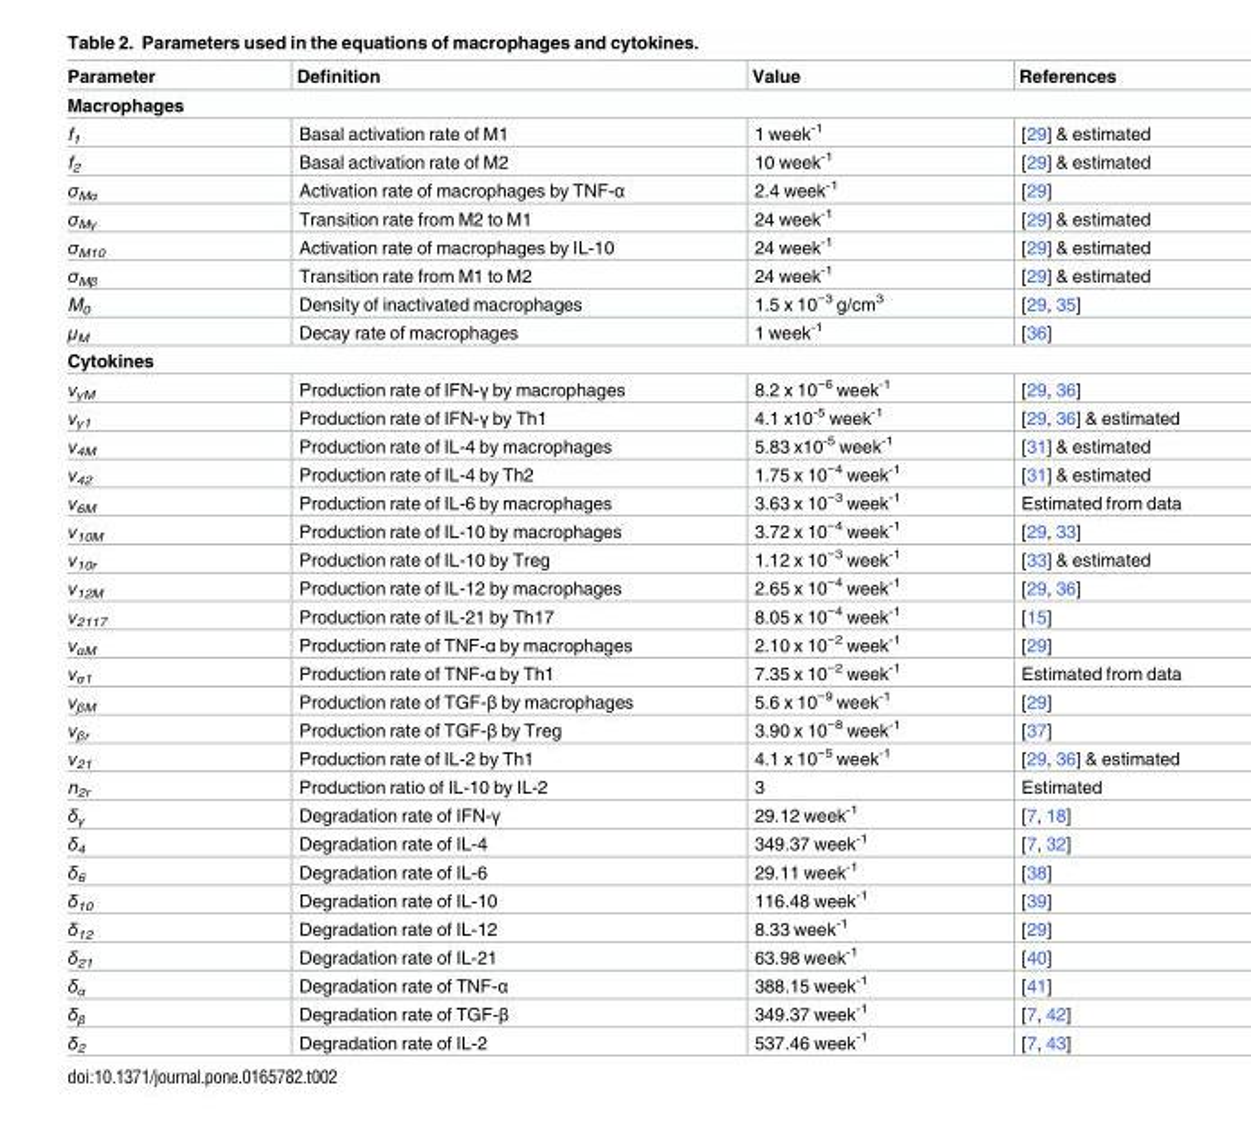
<table><thead><tr><td>Parameter</td><td>Definition</td><td>Value</td><td>References</td></tr></thead><tbody><tr><td colspan="4">Macrophages</td></tr><tr><td>f<sub>1</sub></td><td>Basal activation rate of M1</td><td>1 week<sup>-1</sup></td><td>[29] &amp; estimated</td></tr><tr><td>f<sub>2</sub></td><td>Basal activation rate of M2</td><td>10 week<sup>-1</sup></td><td>[29] &amp; estimated</td></tr><tr><td>σ<sub>Mα</sub></td><td>Activation rate of macrophages by TNF-α</td><td>2.4 week<sup>-1</sup></td><td>[29]</td></tr><tr><td>σ<sub>Mγ</sub></td><td>Transition rate from M2 to M1</td><td>24 week<sup>-1</sup></td><td>[29] &amp; estimated</td></tr><tr><td>σ<sub>M10</sub></td><td>Activation rate of macrophages by IL-10</td><td>24 week<sup>-1</sup></td><td>[29] &amp; estimated</td></tr><tr><td>σ<sub>Mβ</sub></td><td>Transition rate from M1 to M2</td><td>24 week<sup>-1</sup></td><td>[29] &amp; estimated</td></tr><tr><td>M<sub>0</sub></td><td>Density of inactivated macrophages</td><td>1.5 x 10<sup>−3</sup> g/cm<sup>3</sup></td><td>[29, 35]</td></tr><tr><td>μ<sub>M</sub></td><td>Decay rate of macrophages</td><td>1 week<sup>-1</sup></td><td>[36]</td></tr><tr><td colspan="4">Cytokines</td></tr><tr><td>ν<sub>γM</sub></td><td>Production rate of IFN-γ by macrophages</td><td>8.2 x 10<sup>−6</sup> week<sup>-1</sup></td><td>[29, 36]</td></tr><tr><td>ν<sub>γ1</sub></td><td>Production rate of IFN-γ by Th1</td><td>4.1 x10<sup>-5</sup> week<sup>-1</sup></td><td>[29, 36] &amp; estimated</td></tr><tr><td>ν<sub>4M</sub></td><td>Production rate of IL-4 by macrophages</td><td>5.83 x10<sup>-5</sup> week<sup>-1</sup></td><td>[31] &amp; estimated</td></tr><tr><td>ν<sub>42</sub></td><td>Production rate of IL-4 by Th2</td><td>1.75 x 10<sup>−4</sup> week<sup>-1</sup></td><td>[31] &amp; estimated</td></tr><tr><td>ν<sub>6M</sub></td><td>Production rate of IL-6 by macrophages</td><td>3.63 x 10<sup>−3</sup> week<sup>-1</sup></td><td>Estimated from data</td></tr><tr><td>ν<sub>10M</sub></td><td>Production rate of IL-10 by macrophages</td><td>3.72 x 10<sup>−4</sup> week<sup>-1</sup></td><td>[29, 33]</td></tr><tr><td>ν<sub>10r</sub></td><td>Production rate of IL-10 by Treg</td><td>1.12 x 10<sup>−3</sup> week<sup>-1</sup></td><td>[33] &amp; estimated</td></tr><tr><td>ν<sub>12M</sub></td><td>Production rate of IL-12 by macrophages</td><td>2.65 x 10<sup>−4</sup> week<sup>-1</sup></td><td>[29, 36]</td></tr><tr><td>ν<sub>2117</sub></td><td>Production rate of IL-21 by Th17</td><td>8.05 x 10<sup>−4</sup> week<sup>-1</sup></td><td>[15]</td></tr><tr><td>ν<sub>αM</sub></td><td>Production rate of TNF-α by macrophages</td><td>2.10 x 10<sup>−2</sup> week<sup>-1</sup></td><td>[29]</td></tr><tr><td>ν<sub>α1</sub></td><td>Production rate of TNF-α by Th1</td><td>7.35 x 10<sup>−2</sup> week<sup>-1</sup></td><td>Estimated from data</td></tr><tr><td>ν<sub>βM</sub></td><td>Production rate of TGF-β by macrophages</td><td>5.6 x 10<sup>−9</sup> week<sup>-1</sup></td><td>[29]</td></tr><tr><td>ν<sub>βr</sub></td><td>Production rate of TGF-β by Treg</td><td>3.90 x 10<sup>−8</sup> week<sup>-1</sup></td><td>[37]</td></tr><tr><td>ν<sub>21</sub></td><td>Production rate of IL-2 by Th1</td><td>4.1 x 10<sup>−5</sup> week<sup>-1</sup></td><td>[29, 36] &amp; estimated</td></tr><tr><td>n<sub>2r</sub></td><td>Production ratio of IL-10 by IL-2</td><td>3</td><td>Estimated</td></tr><tr><td>δ<sub>γ</sub></td><td>Degradation rate of IFN-γ</td><td>29.12 week<sup>-1</sup></td><td>[7, 18]</td></tr><tr><td>δ<sub>4</sub></td><td>Degradation rate of IL-4</td><td>349.37 week<sup>-1</sup></td><td>[7, 32]</td></tr><tr><td>δ<sub>6</sub></td><td>Degradation rate of IL-6</td><td>29.11 week<sup>-1</sup></td><td>[38]</td></tr><tr><td>δ<sub>10</sub></td><td>Degradation rate of IL-10</td><td>116.48 week<sup>-1</sup></td><td>[39]</td></tr><tr><td>δ<sub>12</sub></td><td>Degradation rate of IL-12</td><td>8.33 week<sup>-1</sup></td><td>[29]</td></tr><tr><td>δ<sub>21</sub></td><td>Degradation rate of IL-21</td><td>63.98 week<sup>-1</sup></td><td>[40]</td></tr><tr><td>δ<sub>α</sub></td><td>Degradation rate of TNF-α</td><td>388.15 week<sup>-1</sup></td><td>[41]</td></tr><tr><td>δ<sub>β</sub></td><td>Degradation rate of TGF-β</td><td>349.37 week<sup>-1</sup></td><td>[7, 42]</td></tr><tr><td>δ<sub>2</sub></td><td>Degradation rate of IL-2</td><td>537.46 week<sup>-1</sup></td><td>[7, 43]</td></tr></tbody></table>